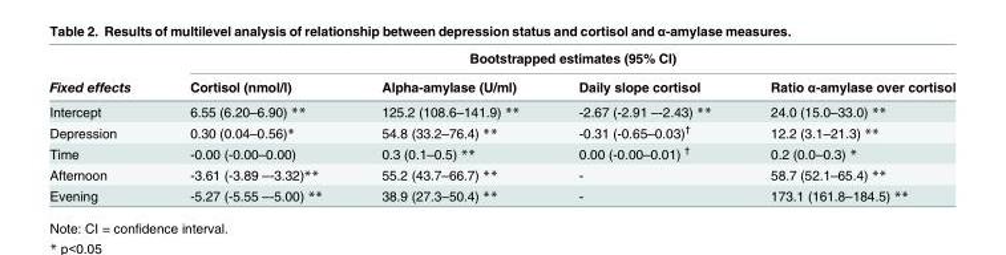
<table><thead><tr><td rowspan="2">Fixed effects</td><td colspan="4">Bootstrapped estimates (95% CI)</td></tr><tr><td>Cortisol (nmol/l)</td><td>Alpha-amylase (U/ml)</td><td>Daily slope cortisol</td><td>Ratio α-amylase over cortisol</td></tr></thead><tbody><tr><td>Intercept</td><td>6.55 (6.20–6.90) **</td><td>125.2 (108.6–141.9) **</td><td>-2.67 (-2.91 –-2.43) **</td><td>24.0 (15.0–33.0) **</td></tr><tr><td>Depression</td><td>0.30 (0.04–0.56)*</td><td>54.8 (33.2–76.4) **</td><td>-0.31 (-0.65–0.03)<sup>†</sup></td><td>12.2 (3.1–21.3) **</td></tr><tr><td>Time</td><td>-0.00 (-0.00–0.00)</td><td>0.3 (0.1–0.5) **</td><td>0.00 (-0.00–0.01) <sup>†</sup></td><td>0.2 (0.0–0.3) *</td></tr><tr><td>Afternoon</td><td>-3.61 (-3.89 –-3.32)**</td><td>55.2 (43.7–66.7) **</td><td>-</td><td>58.7 (52.1–65.4) **</td></tr><tr><td>Evening</td><td>-5.27 (-5.55 –-5.00) **</td><td>38.9 (27.3–50.4) **</td><td>-</td><td>173.1 (161.8–184.5) **</td></tr></tbody></table>